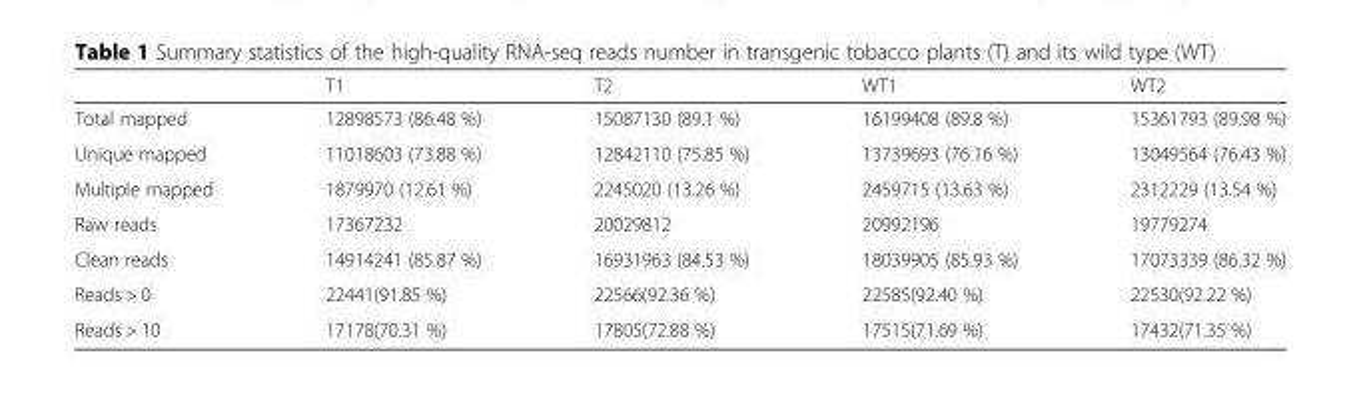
<table><thead><tr><td></td><td>T1</td><td>T2</td><td>WT1</td><td>WT2</td></tr></thead><tbody><tr><td>Total mapped</td><td>12898573 (86.48 %)</td><td>15087130 (89.1 %)</td><td>16199408 (89.8 %)</td><td>15361793 (89.98 %)</td></tr><tr><td>Unique mapped</td><td>11018603 (73.88 %)</td><td>12842110 (75.85 %)</td><td>13739693 (76.16 %)</td><td>13049564 (76.43 %)</td></tr><tr><td>Multiple mapped</td><td>1879970 (12.61 %)</td><td>2245020 (13.26 %)</td><td>2459715 (13.63 %)</td><td>2312229 (13.54 %)</td></tr><tr><td>Raw reads</td><td>17367232</td><td>20029812</td><td>20992196</td><td>19779274</td></tr><tr><td>Clean reads</td><td>14914241 (85.87 %)</td><td>16931963 (84.53 %)</td><td>18039905 (85.93 %)</td><td>17073339 (86.32 %)</td></tr><tr><td>Reads &gt; 0</td><td>22441(91.85 %)</td><td>22566(92.36 %)</td><td>22585(92.40 %)</td><td>22530(92.22 %)</td></tr><tr><td>Reads &gt; 10</td><td>17178(70.31 %)</td><td>17805(72.88 %)</td><td>17515(71.69 %)</td><td>17432(71.35 %)</td></tr></tbody></table>